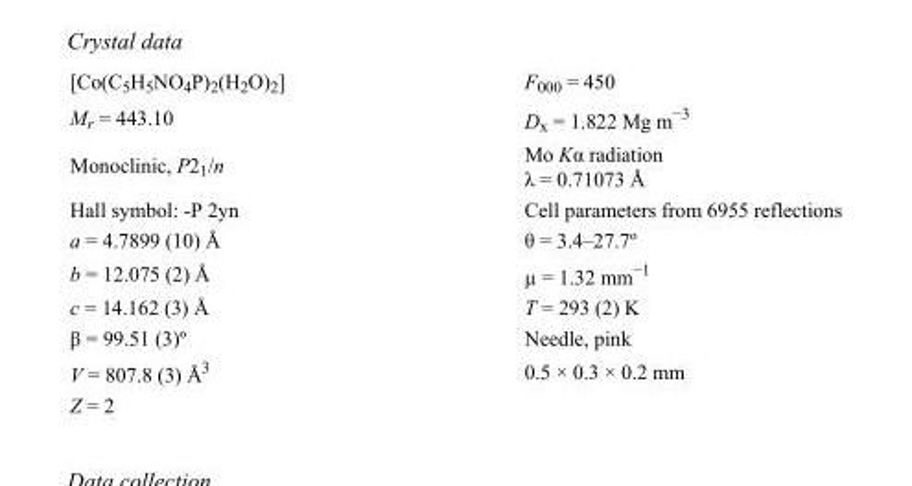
<table><tbody><tr><td>[Co(C<sub>5</sub>H<sub>5</sub>NO<sub>4</sub>P)<sub>2</sub>(H<sub>2</sub>O)<sub>2</sub>]</td><td>F<sub>000</sub> = 450</td></tr><tr><td>M<sub>r</sub> = 443.10</td><td>D<sub>x</sub> = 1.822 Mg m<sup>−3</sup></td></tr><tr><td>Monoclinic, P2<sub>1</sub>/n</td><td>Mo Kα radiation λ = 0.71073 Å</td></tr><tr><td>Hall symbol: -P 2yn</td><td>Cell parameters from 6955 reflections</td></tr><tr><td>a = 4.7899 (10) Å</td><td>θ = 3.4–27.7º</td></tr><tr><td>b = 12.075 (2) Å</td><td>µ = 1.32 mm<sup>−1</sup></td></tr><tr><td>c = 14.162 (3) Å</td><td>T = 293 (2) K</td></tr><tr><td>β = 99.51 (3)º</td><td>Needle, pink</td></tr><tr><td>V = 807.8 (3) Å<sup>3</sup></td><td>0.5 × 0.3 × 0.2 mm</td></tr><tr><td>Z = 2</td><td></td></tr></tbody></table>